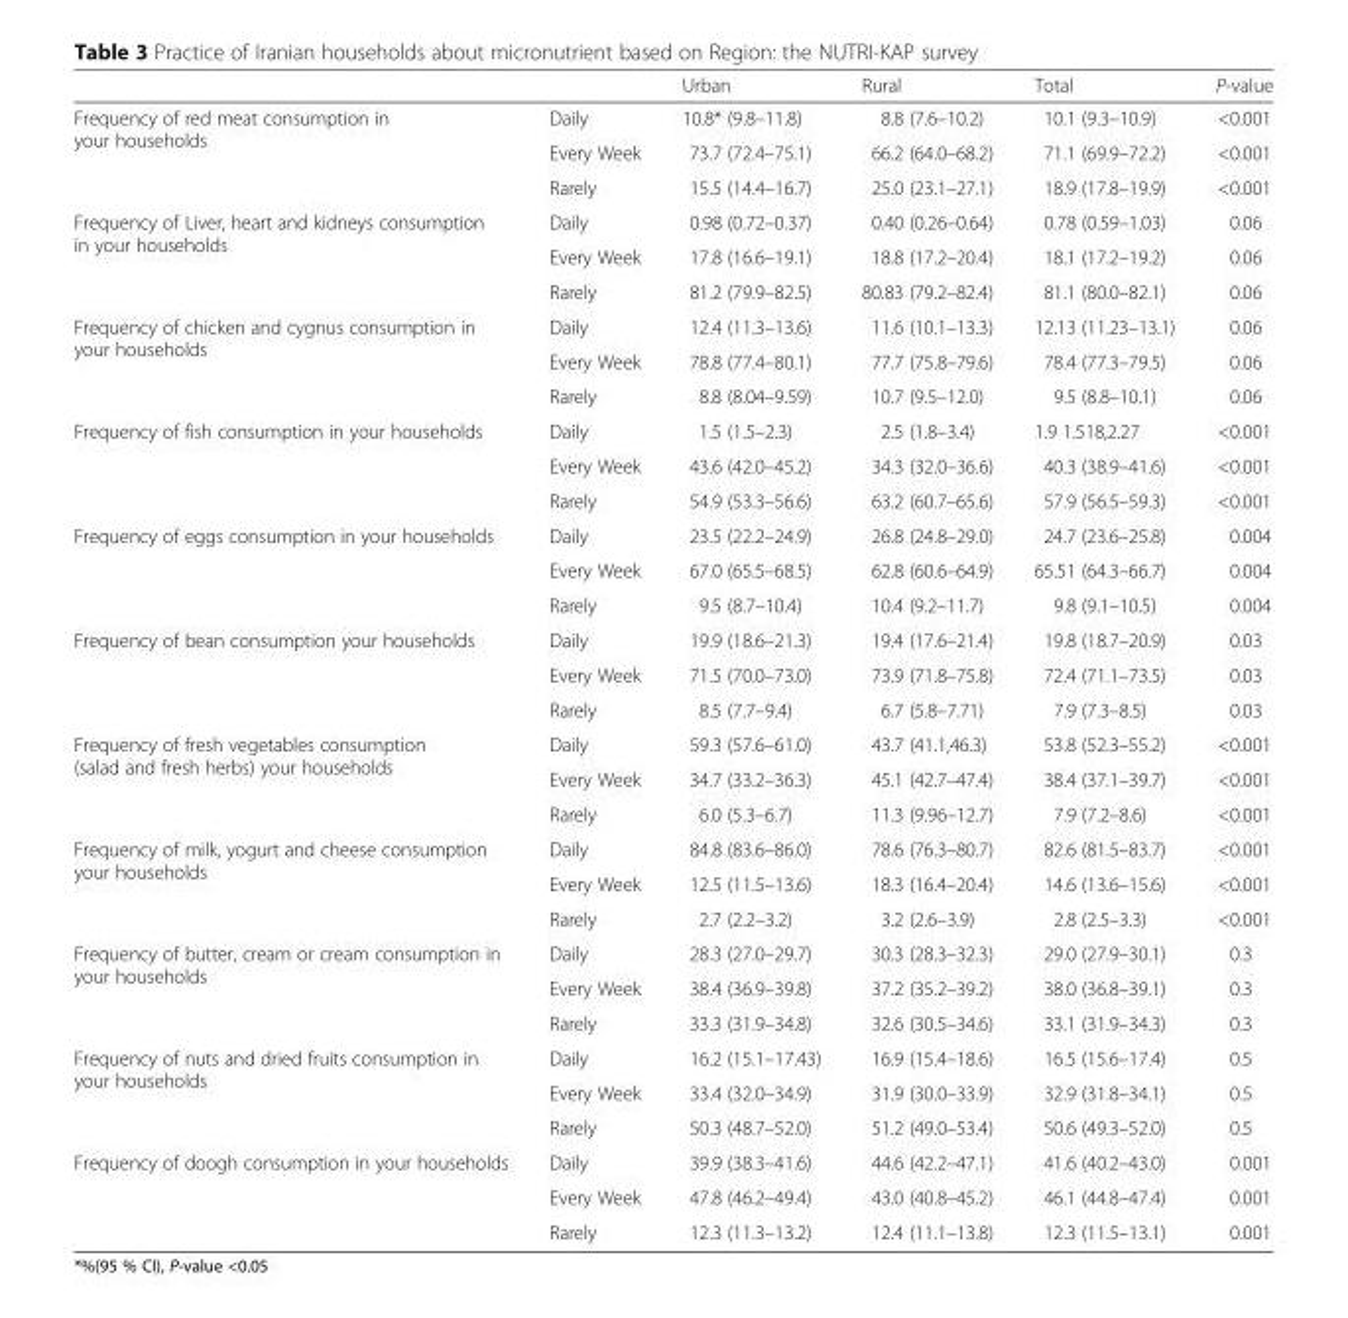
<table><thead><tr><td></td><td></td><td>Urban</td><td>Rural</td><td>Total</td><td>P-value</td></tr></thead><tbody><tr><td rowspan="3">Frequency of red meat consumption in your households</td><td>Daily</td><td>10.8* (9.8–11.8)</td><td>8.8 (7.6–10.2)</td><td>10.1 (9.3–10.9)</td><td>&lt;0.001</td></tr><tr><td>Every Week</td><td>73.7 (72.4–75.1)</td><td>66.2 (64.0–68.2)</td><td>71.1 (69.9–72.2)</td><td>&lt;0.001</td></tr><tr><td>Rarely</td><td>15.5 (14.4–16.7)</td><td>25.0 (23.1–27.1)</td><td>18.9 (17.8–19.9)</td><td>&lt;0.001</td></tr><tr><td rowspan="3">Frequency of Liver, heart and kidneys consumption in your households</td><td>Daily</td><td>0.98 (0.72–0.37)</td><td>0.40 (0.26–0.64)</td><td>0.78 (0.59–1.03)</td><td>0.06</td></tr><tr><td>Every Week</td><td>17.8 (16.6–19.1)</td><td>18.8 (17.2–20.4)</td><td>18.1 (17.2–19.2)</td><td>0.06</td></tr><tr><td>Rarely</td><td>81.2 (79.9–82.5)</td><td>80.83 (79.2–82.4)</td><td>81.1 (80.0–82.1)</td><td>0.06</td></tr><tr><td rowspan="3">Frequency of chicken and cygnus consumption in your households</td><td>Daily</td><td>12.4 (11.3–13.6)</td><td>11.6 (10.1–13.3)</td><td>12.13 (11.23–13.1)</td><td>0.06</td></tr><tr><td>Every Week</td><td>78.8 (77.4–80.1)</td><td>77.7 (75.8–79.6)</td><td>78.4 (77.3–79.5)</td><td>0.06</td></tr><tr><td>Rarely</td><td>8.8 (8.04–9.59)</td><td>10.7 (9.5–12.0)</td><td>9.5 (8.8–10.1)</td><td>0.06</td></tr><tr><td rowspan="3">Frequency of fish consumption in your households</td><td>Daily</td><td>1.5 (1.5–2.3)</td><td>2.5 (1.8–3.4)</td><td>1.9 1.518,2.27</td><td>&lt;0.001</td></tr><tr><td>Every Week</td><td>43.6 (42.0–45.2)</td><td>34.3 (32.0–36.6)</td><td>40.3 (38.9–41.6)</td><td>&lt;0.001</td></tr><tr><td>Rarely</td><td>54.9 (53.3–56.6)</td><td>63.2 (60.7–65.6)</td><td>57.9 (56.5–59.3)</td><td>&lt;0.001</td></tr><tr><td rowspan="3">Frequency of eggs consumption in your households</td><td>Daily</td><td>23.5 (22.2–24.9)</td><td>26.8 (24.8–29.0)</td><td>24.7 (23.6–25.8)</td><td>0.004</td></tr><tr><td>Every Week</td><td>67.0 (65.5–68.5)</td><td>62.8 (60.6–64.9)</td><td>65.51 (64.3–66.7)</td><td>0.004</td></tr><tr><td>Rarely</td><td>9.5 (8.7–10.4)</td><td>10.4 (9.2–11.7)</td><td>9.8 (9.1–10.5)</td><td>0.004</td></tr><tr><td rowspan="3">Frequency of bean consumption your households</td><td>Daily</td><td>19.9 (18.6–21.3)</td><td>19.4 (17.6–21.4)</td><td>19.8 (18.7–20.9)</td><td>0.03</td></tr><tr><td>Every Week</td><td>71.5 (70.0–73.0)</td><td>73.9 (71.8–75.8)</td><td>72.4 (71.1–73.5)</td><td>0.03</td></tr><tr><td>Rarely</td><td>8.5 (7.7–9.4)</td><td>6.7 (5.8–7.71)</td><td>7.9 (7.3–8.5)</td><td>0.03</td></tr><tr><td rowspan="3">Frequency of fresh vegetables consumption (salad and fresh herbs) your households</td><td>Daily</td><td>59.3 (57.6–61.0)</td><td>43.7 (41.1,46.3)</td><td>53.8 (52.3–55.2)</td><td>&lt;0.001</td></tr><tr><td>Every Week</td><td>34.7 (33.2–36.3)</td><td>45.1 (42.7–47.4)</td><td>38.4 (37.1–39.7)</td><td>&lt;0.001</td></tr><tr><td>Rarely</td><td>6.0 (5.3–6.7)</td><td>11.3 (9.96–12.7)</td><td>7.9 (7.2–8.6)</td><td>&lt;0.001</td></tr><tr><td rowspan="3">Frequency of milk, yogurt and cheese consumption your households</td><td>Daily</td><td>84.8 (83.6–86.0)</td><td>78.6 (76.3–80.7)</td><td>82.6 (81.5–83.7)</td><td>&lt;0.001</td></tr><tr><td>Every Week</td><td>12.5 (11.5–13.6)</td><td>18.3 (16.4–20.4)</td><td>14.6 (13.6–15.6)</td><td>&lt;0.001</td></tr><tr><td>Rarely</td><td>2.7 (2.2–3.2)</td><td>3.2 (2.6–3.9)</td><td>2.8 (2.5–3.3)</td><td>&lt;0.001</td></tr><tr><td rowspan="3">Frequency of butter, cream or cream consumption in your households</td><td>Daily</td><td>28.3 (27.0–29.7)</td><td>30.3 (28.3–32.3)</td><td>29.0 (27.9–30.1)</td><td>0.3</td></tr><tr><td>Every Week</td><td>38.4 (36.9–39.8)</td><td>37.2 (35.2–39.2)</td><td>38.0 (36.8–39.1)</td><td>0.3</td></tr><tr><td>Rarely</td><td>33.3 (31.9–34.8)</td><td>32.6 (30.5–34.6)</td><td>33.1 (31.9–34.3)</td><td>0.3</td></tr><tr><td rowspan="3">Frequency of nuts and dried fruits consumption in your households</td><td>Daily</td><td>16.2 (15.1–17.43)</td><td>16.9 (15.4–18.6)</td><td>16.5 (15.6–17.4)</td><td>0.5</td></tr><tr><td>Every Week</td><td>33.4 (32.0–34.9)</td><td>31.9 (30.0–33.9)</td><td>32.9 (31.8–34.1)</td><td>0.5</td></tr><tr><td>Rarely</td><td>50.3 (48.7–52.0)</td><td>51.2 (49.0–53.4)</td><td>50.6 (49.3–52.0)</td><td>0.5</td></tr><tr><td rowspan="3">Frequency of doogh consumption in your households</td><td>Daily</td><td>39.9 (38.3–41.6)</td><td>44.6 (42.2–47.1)</td><td>41.6 (40.2–43.0)</td><td>0.001</td></tr><tr><td>Every Week</td><td>47.8 (46.2–49.4)</td><td>43.0 (40.8–45.2)</td><td>46.1 (44.8–47.4)</td><td>0.001</td></tr><tr><td>Rarely</td><td>12.3 (11.3–13.2)</td><td>12.4 (11.1–13.8)</td><td>12.3 (11.5–13.1)</td><td>0.001</td></tr></tbody></table>